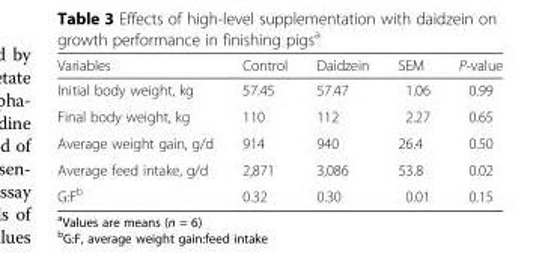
<table><thead><tr><td>Variables</td><td>Control</td><td>Daidzein</td><td>SEM</td><td>P-value</td></tr></thead><tbody><tr><td>Initial body weight, kg</td><td>57.45</td><td>57.47</td><td>1.06</td><td>0.99</td></tr><tr><td>Final body weight, kg</td><td>110</td><td>112</td><td>2.27</td><td>0.65</td></tr><tr><td>Average weight gain, g/d</td><td>914</td><td>940</td><td>26.4</td><td>0.50</td></tr><tr><td>Average feed intake, g/d</td><td>2,871</td><td>3,086</td><td>53.8</td><td>0.02</td></tr><tr><td>G:F<sup>b</sup></td><td>0.32</td><td>0.30</td><td>0.01</td><td>0.15</td></tr></tbody></table>